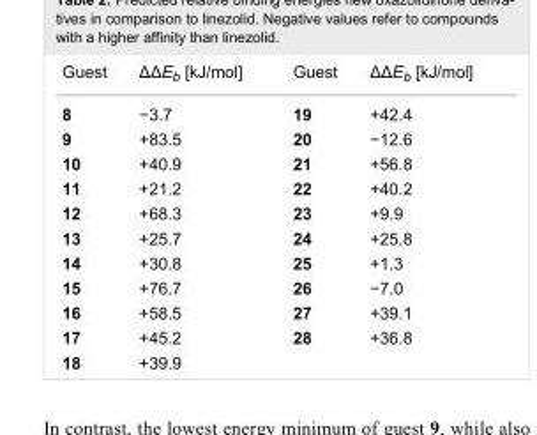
<table><tbody><tr><td>Guest</td><td>ΔΔE<sub>b</sub> [kJ/mol]</td><td>Guest</td><td>ΔΔE<sub>b</sub> [kJ/mol]</td></tr><tr><td>8</td><td>−3.7</td><td>19</td><td>+42.4</td></tr><tr><td>9</td><td>+83.5</td><td>20</td><td>−12.6</td></tr><tr><td>10</td><td>+40.9</td><td>21</td><td>+56.8</td></tr><tr><td>11</td><td>+21.2</td><td>22</td><td>+40.2</td></tr><tr><td>12</td><td>+68.3</td><td>23</td><td>+9.9</td></tr><tr><td>13</td><td>+25.7</td><td>24</td><td>+25.8</td></tr><tr><td>14</td><td>+30.8</td><td>25</td><td>+1.3</td></tr><tr><td>15</td><td>+76.7</td><td>26</td><td>−7.0</td></tr><tr><td>16</td><td>+58.5</td><td>27</td><td>+39.1</td></tr><tr><td>17</td><td>+45.2</td><td>28</td><td>+36.8</td></tr><tr><td>18</td><td>+39.9</td><td></td><td></td></tr></tbody></table>